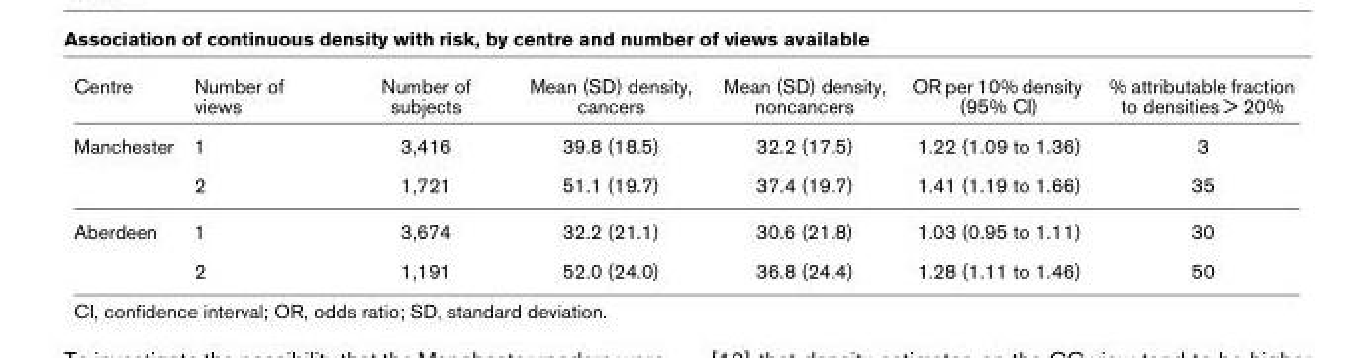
<table><thead><tr><td>Centre</td><td>Number of views</td><td>Number of subjects</td><td>Mean (SD) density, cancers</td><td>Mean (SD) density, noncancers</td><td>OR per 10% density (95% CI)</td><td>% attributable fraction to densities &gt; 20%</td></tr></thead><tbody><tr><td rowspan="2">Manchester</td><td>1</td><td>3,416</td><td>39.8 (18.5)</td><td>32.2 (17.5)</td><td>1.22 (1.09 to 1.36)</td><td>3</td></tr><tr><td>2</td><td>1,721</td><td>51.1 (19.7)</td><td>37.4 (19.7)</td><td>1.41 (1.19 to 1.66)</td><td>35</td></tr><tr><td rowspan="2">Aberdeen</td><td>1</td><td>3,674</td><td>32.2 (21.1)</td><td>30.6 (21.8)</td><td>1.03 (0.95 to 1.11)</td><td>30</td></tr><tr><td>2</td><td>1,191</td><td>52.0 (24.0)</td><td>36.8 (24.4)</td><td>1.28 (1.11 to 1.46)</td><td>50</td></tr></tbody></table>